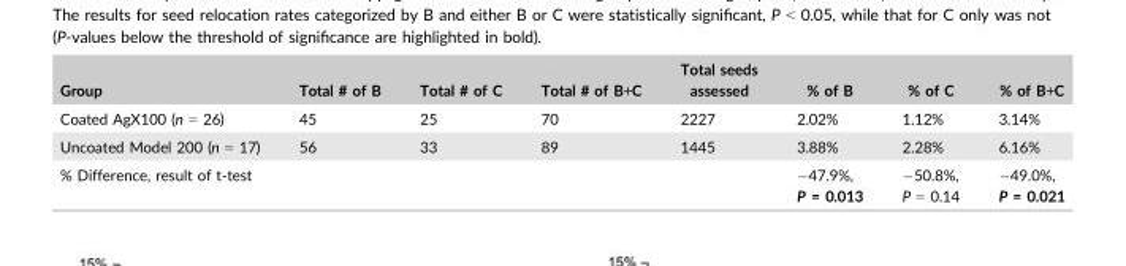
<table><thead><tr><td>Group</td><td>Total # of B</td><td>Total # of C</td><td>Total # of B+C</td><td>Total seeds assessed</td><td>% of B</td><td>% of C</td><td>% of B+C</td></tr></thead><tbody><tr><td>Coated AgX100 (n = 26)</td><td>45</td><td>25</td><td>70</td><td>2227</td><td>2.02%</td><td>1.12%</td><td>3.14%</td></tr><tr><td>Uncoated Model 200 (n = 17)</td><td>56</td><td>33</td><td>89</td><td>1445</td><td>3.88%</td><td>2.28%</td><td>6.16%</td></tr><tr><td>% Difference, result of t-test</td><td></td><td></td><td></td><td></td><td>−47.9%, P = 0.013</td><td>−50.8%, P = 0.14</td><td>−49.0%, P = 0.021</td></tr></tbody></table>